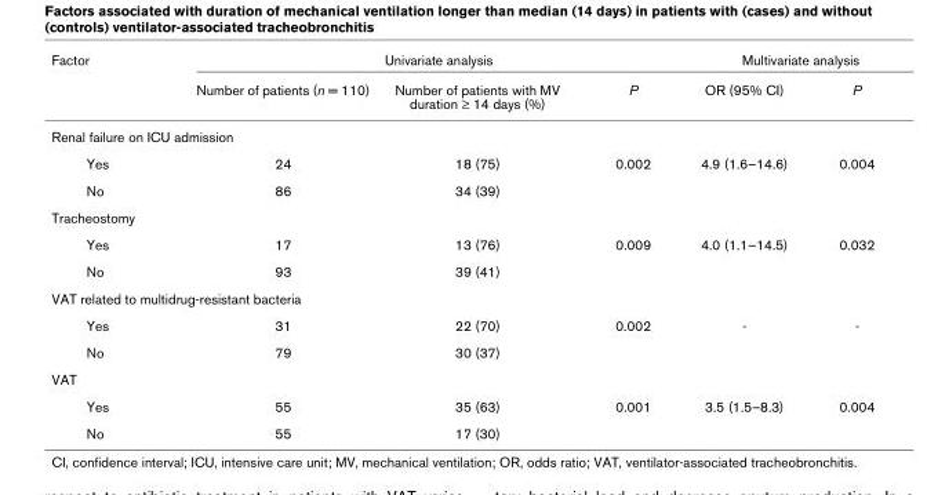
<table><thead><tr><td rowspan="2">Factor</td><td colspan="3">Univariate analysis</td><td colspan="2">Multivariate analysis</td></tr><tr><td>Number of patients (n = 110)</td><td>Number of patients with MV duration ≥ 14 days (%)</td><td>P</td><td>OR (95% CI)</td><td>P</td></tr></thead><tbody><tr><td colspan="6">Renal failure on ICU admission</td></tr><tr><td>Yes</td><td>24</td><td>18 (75)</td><td>0.002</td><td>4.9 (1.6–14.6)</td><td>0.004</td></tr><tr><td>No</td><td>86</td><td>34 (39)</td><td></td><td></td><td></td></tr><tr><td colspan="6">Tracheostomy</td></tr><tr><td>Yes</td><td>17</td><td>13 (76)</td><td>0.009</td><td>4.0 (1.1–14.5)</td><td>0.032</td></tr><tr><td>No</td><td>93</td><td>39 (41)</td><td></td><td></td><td></td></tr><tr><td colspan="6">VAT related to multidrug-resistant bacteria</td></tr><tr><td>Yes</td><td>31</td><td>22 (70)</td><td>0.002</td><td>-</td><td>-</td></tr><tr><td>No</td><td>79</td><td>30 (37)</td><td></td><td></td><td></td></tr><tr><td colspan="6">VAT</td></tr><tr><td>Yes</td><td>55</td><td>35 (63)</td><td>0.001</td><td>3.5 (1.5–8.3)</td><td>0.004</td></tr><tr><td>No</td><td>55</td><td>17 (30)</td><td></td><td></td><td></td></tr></tbody></table>